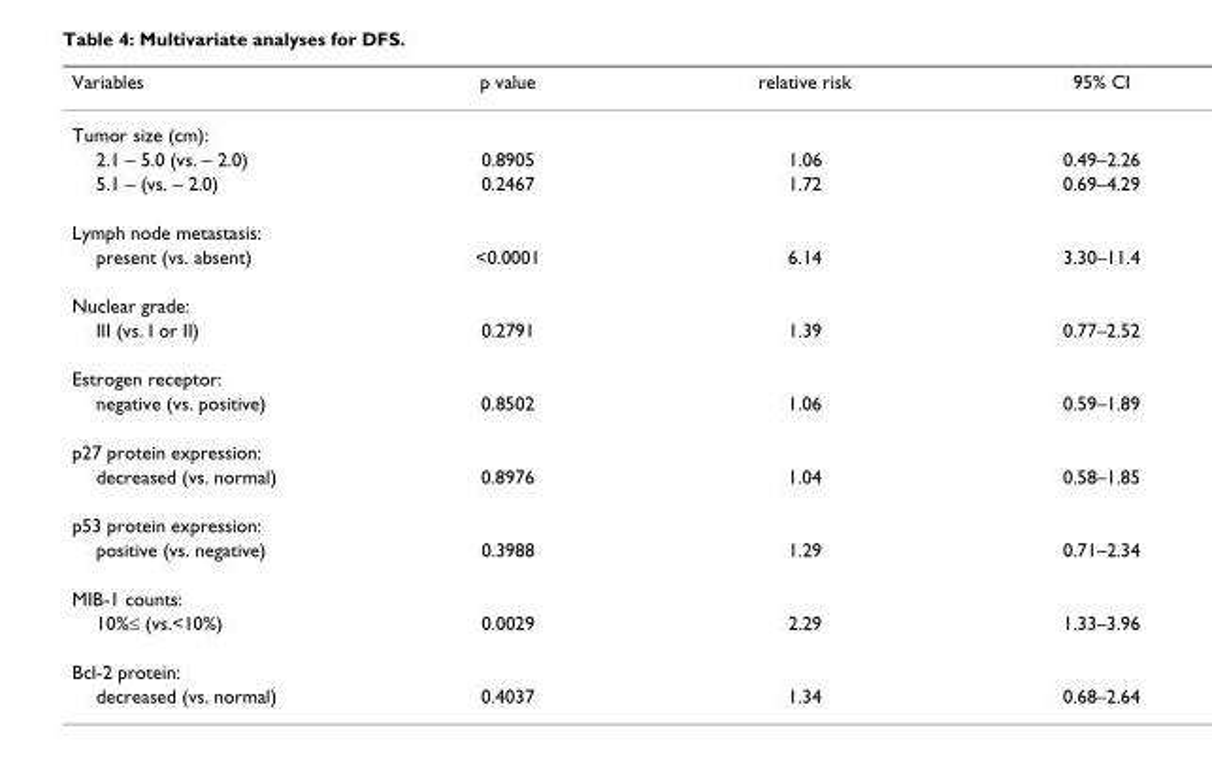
<table><thead><tr><td>Variables</td><td>p value</td><td>relative risk</td><td>95% CI</td></tr></thead><tbody><tr><td colspan="4">Tumor size (cm):</td></tr><tr><td>2.1 – 5.0 (vs. – 2.0)</td><td>0.8905</td><td>1.06</td><td>0.49–2.26</td></tr><tr><td>5.1 – (vs. – 2.0)</td><td>0.2467</td><td>1.72</td><td>0.69–4.29</td></tr><tr><td colspan="4">Lymph node metastasis:</td></tr><tr><td>present (vs. absent)</td><td>&lt;0.0001</td><td>6.14</td><td>3.30–11.4</td></tr><tr><td colspan="4">Nuclear grade:</td></tr><tr><td>III (vs. I or II)</td><td>0.2791</td><td>1.39</td><td>0.77–2.52</td></tr><tr><td colspan="4">Estrogen receptor:</td></tr><tr><td>negative (vs. positive)</td><td>0.8502</td><td>1.06</td><td>0.59–1.89</td></tr><tr><td colspan="4">p27 protein expression:</td></tr><tr><td>decreased (vs. normal)</td><td>0.8976</td><td>1.04</td><td>0.58–1.85</td></tr><tr><td colspan="4">p53 protein expression:</td></tr><tr><td>positive (vs. negative)</td><td>0.3988</td><td>1.29</td><td>0.71–2.34</td></tr><tr><td colspan="4">MIB-1 counts:</td></tr><tr><td>10%≤ (vs.&lt;10%)</td><td>0.0029</td><td>2.29</td><td>1.33–3.96</td></tr><tr><td colspan="4">Bcl-2 protein:</td></tr><tr><td>decreased (vs. normal)</td><td>0.4037</td><td>1.34</td><td>0.68–2.64</td></tr></tbody></table>